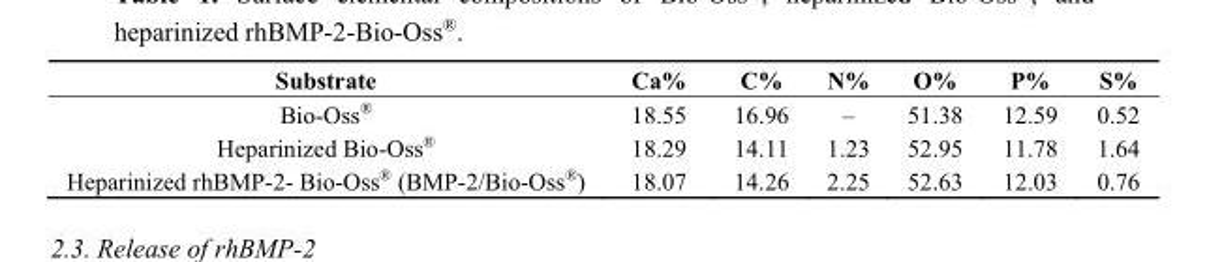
<table><thead><tr><td>Substrate</td><td>Ca%</td><td>C%</td><td>N%</td><td>O%</td><td>P%</td><td>S%</td></tr></thead><tbody><tr><td>Bio-Oss<sup>®</sup></td><td>18.55</td><td>16.96</td><td>–</td><td>51.38</td><td>12.59</td><td>0.52</td></tr><tr><td>Heparinized Bio-Oss<sup>®</sup></td><td>18.29</td><td>14.11</td><td>1.23</td><td>52.95</td><td>11.78</td><td>1.64</td></tr><tr><td>Heparinized rhBMP-2- Bio-Oss<sup>®</sup> (BMP-2/Bio-Oss<sup>®</sup>)</td><td>18.07</td><td>14.26</td><td>2.25</td><td>52.63</td><td>12.03</td><td>0.76</td></tr></tbody></table>